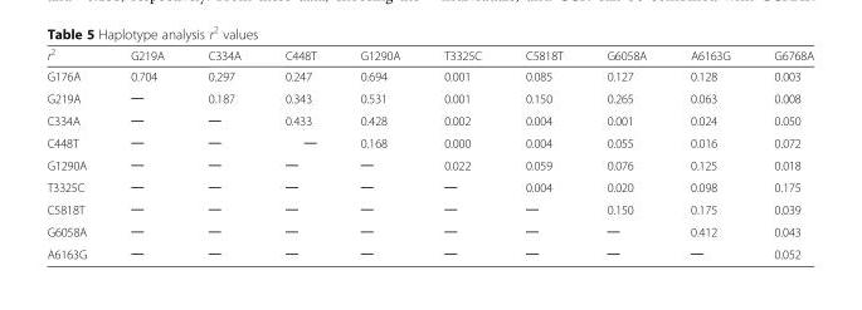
<table><thead><tr><td>r<sup>2</sup></td><td>G219A</td><td>C334A</td><td>C448T</td><td>G1290A</td><td>T3325C</td><td>C5818T</td><td>G6058A</td><td>A6163G</td><td>G6768A</td></tr></thead><tbody><tr><td>G176A</td><td>0.704</td><td>0.297</td><td>0.247</td><td>0.694</td><td>0.001</td><td>0.085</td><td>0.127</td><td>0.128</td><td>0.003</td></tr><tr><td>G219A</td><td>─</td><td>0.187</td><td>0.343</td><td>0.531</td><td>0.001</td><td>0.150</td><td>0.265</td><td>0.063</td><td>0.008</td></tr><tr><td>C334A</td><td>─</td><td>─</td><td>0.433</td><td>0.428</td><td>0.002</td><td>0.004</td><td>0.001</td><td>0.024</td><td>0.050</td></tr><tr><td>C448T</td><td>─</td><td>─</td><td>─</td><td>0.168</td><td>0.000</td><td>0.004</td><td>0.055</td><td>0.016</td><td>0.072</td></tr><tr><td>G1290A</td><td>─</td><td>─</td><td>─</td><td>─</td><td>0.022</td><td>0.059</td><td>0.076</td><td>0.125</td><td>0.018</td></tr><tr><td>T3325C</td><td>─</td><td>─</td><td>─</td><td>─</td><td>─</td><td>0.004</td><td>0.020</td><td>0.098</td><td>0.175</td></tr><tr><td>C5818T</td><td>─</td><td>─</td><td>─</td><td>─</td><td>─</td><td>─</td><td>0.150</td><td>0.175</td><td>0.039</td></tr><tr><td>G6058A</td><td>─</td><td>─</td><td>─</td><td>─</td><td>─</td><td>─</td><td>─</td><td>0.412</td><td>0.043</td></tr><tr><td>A6163G</td><td>─</td><td>─</td><td>─</td><td>─</td><td>─</td><td>─</td><td>─</td><td>─</td><td>0.052</td></tr></tbody></table>